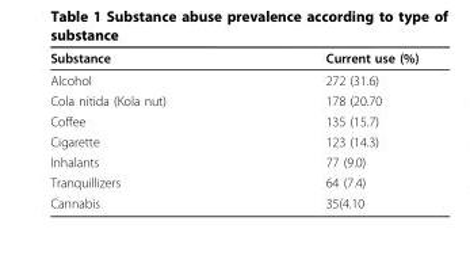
<table><thead><tr><td>Substance</td><td>Current use (%)</td></tr></thead><tbody><tr><td>Alcohol</td><td>272 (31.6)</td></tr><tr><td>Cola nitida (Kola nut)</td><td>178 (20.70</td></tr><tr><td>Coffee</td><td>135 (15.7)</td></tr><tr><td>Cigarette</td><td>123 (14.3)</td></tr><tr><td>Inhalants</td><td>77 (9.0)</td></tr><tr><td>Tranquillizers</td><td>64 (7.4)</td></tr><tr><td>Cannabis</td><td>35(4.10</td></tr></tbody></table>